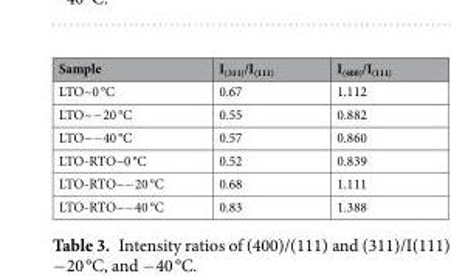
<table><thead><tr><td>Sample</td><td>I<sub>(311)</sub>/I<sub>(111)</sub></td><td>I<sub>(400)</sub>/I<sub>(111)</sub></td></tr></thead><tbody><tr><td>LTO~0 °C</td><td>0.67</td><td>1.112</td></tr><tr><td>LTO~−20 °C</td><td>0.55</td><td>0.882</td></tr><tr><td>LTO~−40 °C</td><td>0.57</td><td>0.860</td></tr><tr><td>LTO-RTO~0 °C</td><td>0.52</td><td>0.839</td></tr><tr><td>LTO-RTO~−20 °C</td><td>0.68</td><td>1.111</td></tr><tr><td>LTO-RTO~−40 °C</td><td>0.83</td><td>1.388</td></tr></tbody></table>